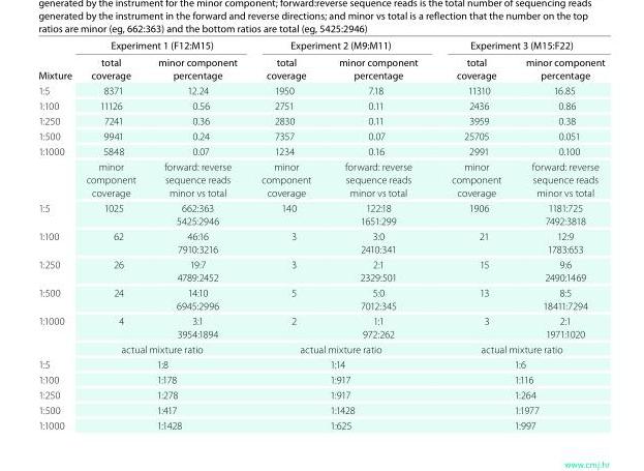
<table><thead><tr><td rowspan="2">Mixture</td><td colspan="2">experiment 1 (F12:M15)</td><td colspan="2">experiment 2 (M9:M11)</td><td colspan="2">experiment 3 (M15:F22)</td></tr><tr><td>total coverage</td><td>minor component percentage</td><td>total coverage</td><td>minor component percentage</td><td>total coverage</td><td>minor component percentage</td></tr></thead><tbody><tr><td>1:5</td><td>8371</td><td>12.24</td><td>1950</td><td>7.18</td><td>11310</td><td>16.85</td></tr><tr><td>1:100</td><td>11126</td><td>0.56</td><td>2751</td><td>0.11</td><td>2436</td><td>0.86</td></tr><tr><td>1:250</td><td>7241</td><td>0.36</td><td>2830</td><td>0.11</td><td>3959</td><td>0.38</td></tr><tr><td>1:500</td><td>9941</td><td>0.24</td><td>7357</td><td>0.07</td><td>25705</td><td>0.051</td></tr><tr><td rowspan="2">1:1000</td><td>5848</td><td>0.07</td><td>1234</td><td>0.16</td><td>2991</td><td>0.100</td></tr><tr><td>minor component coverage</td><td>forward: reverse sequence reads minor vs total</td><td>minor component coverage</td><td>forward: reverse sequence reads minor vs total</td><td>minor component coverage</td><td>forward: reverse sequence reads minor vs total</td></tr><tr><td>1:5</td><td>1025</td><td>662:363 5425:2946</td><td>140</td><td>122:18 1651:299</td><td>1906</td><td>1181:725 7492:3818</td></tr><tr><td>1:100</td><td>62</td><td>46:16 7910:3216</td><td>3</td><td>3:0 2410:341</td><td>21</td><td>12:9 1783:653</td></tr><tr><td>1:250</td><td>26</td><td>19:7 4789:2452</td><td>3</td><td>2:1 2329:501</td><td>15</td><td>9:6 2490:1469</td></tr><tr><td>1:500</td><td>24</td><td>14:10 6945:2996</td><td>5</td><td>5:0 7012:345</td><td>13</td><td>8:5 18411:7294</td></tr><tr><td rowspan="2">1:1000</td><td>4</td><td>3:1 3954:1894</td><td>2</td><td>1:1 972:262</td><td>3</td><td>2:1 1971:1020</td></tr><tr><td colspan="2">actual mixture ratio</td><td colspan="2">actual mixture ratio</td><td colspan="2">actual mixture ratio</td></tr><tr><td>1:5</td><td colspan="2">1:8</td><td colspan="2">1:14</td><td colspan="2">1:6</td></tr><tr><td>1:100</td><td colspan="2">1:178</td><td colspan="2">1:917</td><td colspan="2">1:116</td></tr><tr><td>1:250</td><td colspan="2">1:278</td><td colspan="2">1:917</td><td colspan="2">1:264</td></tr><tr><td>1:500</td><td colspan="2">1:417</td><td colspan="2">1:1428</td><td colspan="2">1:1977</td></tr><tr><td>1:1000</td><td colspan="2">1:1428</td><td colspan="2">1:625</td><td colspan="2">1:997</td></tr></tbody></table>